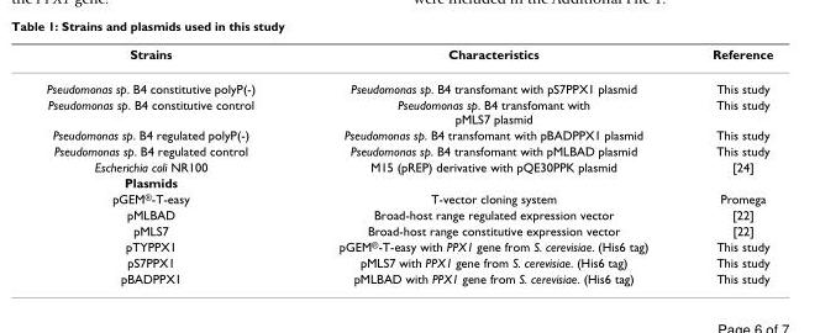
<table><thead><tr><td>Strains</td><td>Characteristics</td><td>Reference</td></tr></thead><tbody><tr><td>Pseudomonas sp. B4 constitutive polyP(-)</td><td>Pseudomonas sp. B4 transfomant with pS7PPX1 plasmid</td><td>This study</td></tr><tr><td>Pseudomonas sp. B4 constitutive control</td><td>Pseudomonas sp. B4 transfomant with pMLS7 plasmid</td><td>This study</td></tr><tr><td>Pseudomonas sp. B4 regulated polyP(-)</td><td>Pseudomonas sp. B4 transfomant with pBADPPX1 plasmid</td><td>This study</td></tr><tr><td>Pseudomonas sp. B4 regulated control</td><td>Pseudomonas sp. B4 transfomant with pMLBAD plasmid</td><td>This study</td></tr><tr><td>Escherichia coli NR100</td><td>M15 (pREP) derivative with pQE30PPK plasmid</td><td>[24]</td></tr><tr><td colspan="3">Plasmids</td></tr><tr><td>pGEM<sup>®</sup>-T-easy</td><td>T-vector cloning system</td><td>Promega</td></tr><tr><td>pMLBAD</td><td>Broad-host range regulated expression vector</td><td>[22]</td></tr><tr><td>pMLS7</td><td>Broad-host range constitutive expression vector</td><td>[22]</td></tr><tr><td>pTYPPX1</td><td>pGEM<sup>®</sup>-T-easy with PPX1 gene from S. cerevisiae. (His6 tag)</td><td>This study</td></tr><tr><td>pS7PPX1</td><td>pMLS7 with PPX1 gene from S. cerevisiae. (His6 tag)</td><td>This study</td></tr><tr><td>pBADPPX1</td><td>pMLBAD with PPX1 gene from S. cerevisiae. (His6 tag)</td><td>This study</td></tr></tbody></table>